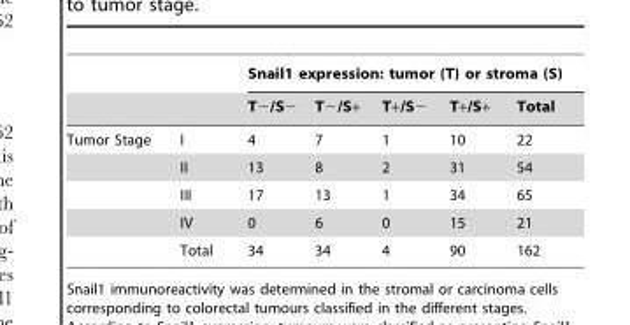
<table><thead><tr><td rowspan="2"></td><td rowspan="2"></td><td colspan="5">Snail1 expression: tumor (T) or stroma (S)</td></tr><tr><td>T−/S−</td><td>T−/S+</td><td>T+/S−</td><td>T+/S+</td><td>Total</td></tr></thead><tbody><tr><td rowspan="5">Tumor Stage</td><td>I</td><td>4</td><td>7</td><td>1</td><td>10</td><td>22</td></tr><tr><td>II</td><td>13</td><td>8</td><td>2</td><td>31</td><td>54</td></tr><tr><td>III</td><td>17</td><td>13</td><td>1</td><td>34</td><td>65</td></tr><tr><td>IV</td><td>0</td><td>6</td><td>0</td><td>15</td><td>21</td></tr><tr><td>Total</td><td>34</td><td>34</td><td>4</td><td>90</td><td>162</td></tr></tbody></table>